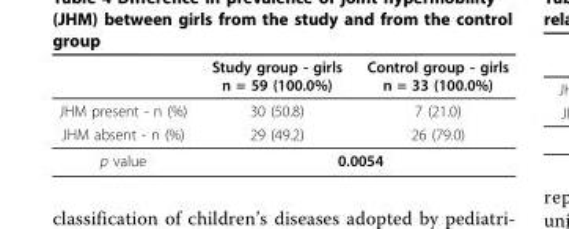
<table><thead><tr><td></td><td>Study group - girls n = 59 (100.0%)</td><td>Control group - girls n = 33 (100.0%)</td></tr></thead><tbody><tr><td>JHM present - n (%)</td><td>30 (50.8)</td><td>7 (21.0)</td></tr><tr><td>JHM absent - n (%)</td><td>29 (49.2)</td><td>26 (79.0)</td></tr><tr><td>p value</td><td colspan="2">0.0054</td></tr></tbody></table>